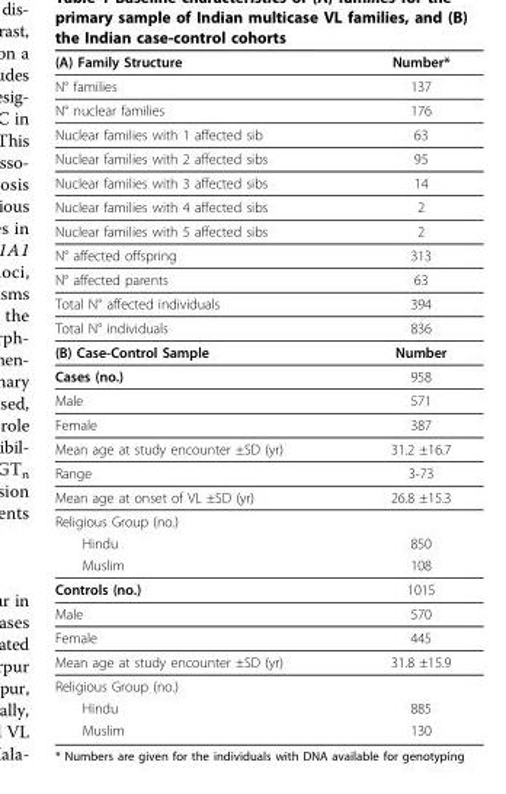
<table><thead><tr><td>(A) Family Structure</td><td>Number*</td></tr></thead><tbody><tr><td>N° families</td><td>137</td></tr><tr><td>N° nuclear families</td><td>176</td></tr><tr><td>Nuclear families with 1 affected sib</td><td>63</td></tr><tr><td>Nuclear families with 2 affected sibs</td><td>95</td></tr><tr><td>Nuclear families with 3 affected sibs</td><td>14</td></tr><tr><td>Nuclear families with 4 affected sibs</td><td>2</td></tr><tr><td>Nuclear families with 5 affected sibs</td><td>2</td></tr><tr><td>N° affected offspring</td><td>313</td></tr><tr><td>N° affected parents</td><td>63</td></tr><tr><td>Total N° affected individuals</td><td>394</td></tr><tr><td>Total N° individuals</td><td>836</td></tr><tr><td>(B) Case-Control Sample</td><td>Number</td></tr><tr><td>Cases (no.)</td><td>958</td></tr><tr><td>Male</td><td>571</td></tr><tr><td>Female</td><td>387</td></tr><tr><td>Mean age at study encounter ±SD (yr)</td><td>31.2 ±16.7</td></tr><tr><td>Range</td><td>3-73</td></tr><tr><td>Mean age at onset of VL ±SD (yr)</td><td>26.8 ±15.3</td></tr><tr><td colspan="2">Religious Group (no.)</td></tr><tr><td>Hindu</td><td>850</td></tr><tr><td>Muslim</td><td>108</td></tr><tr><td>Controls (no.)</td><td>1015</td></tr><tr><td>Male</td><td>570</td></tr><tr><td>Female</td><td>445</td></tr><tr><td>Mean age at study encounter ±SD (yr)</td><td>31.8 ±15.9</td></tr><tr><td colspan="2">Religious Group (no.)</td></tr><tr><td>Hindu</td><td>885</td></tr><tr><td>Muslim</td><td>130</td></tr></tbody></table>